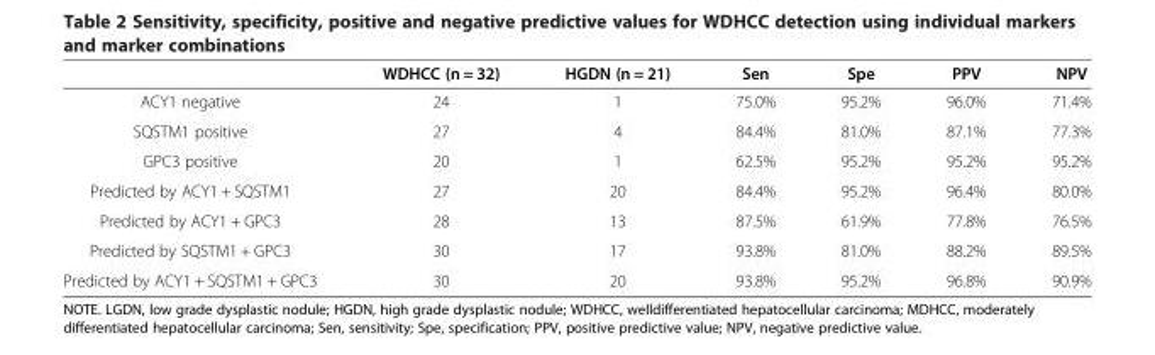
<table><thead><tr><td></td><td>WDHCC (n = 32)</td><td>HGDN (n = 21)</td><td>Sen</td><td>Spe</td><td>PPV</td><td>NPV</td></tr></thead><tbody><tr><td>ACY1 negative</td><td>24</td><td>1</td><td>75.0%</td><td>95.2%</td><td>96.0%</td><td>71.4%</td></tr><tr><td>SQSTM1 positive</td><td>27</td><td>4</td><td>84.4%</td><td>81.0%</td><td>87.1%</td><td>77.3%</td></tr><tr><td>GPC3 positive</td><td>20</td><td>1</td><td>62.5%</td><td>95.2%</td><td>95.2%</td><td>95.2%</td></tr><tr><td>Predicted by ACY1 + SQSTM1</td><td>27</td><td>20</td><td>84.4%</td><td>95.2%</td><td>96.4%</td><td>80.0%</td></tr><tr><td>Predicted by ACY1 + GPC3</td><td>28</td><td>13</td><td>87.5%</td><td>61.9%</td><td>77.8%</td><td>76.5%</td></tr><tr><td>Predicted by SQSTM1 + GPC3</td><td>30</td><td>17</td><td>93.8%</td><td>81.0%</td><td>88.2%</td><td>89.5%</td></tr><tr><td>Predicted by ACY1 + SQSTM1 + GPC3</td><td>30</td><td>20</td><td>93.8%</td><td>95.2%</td><td>96.8%</td><td>90.9%</td></tr></tbody></table>